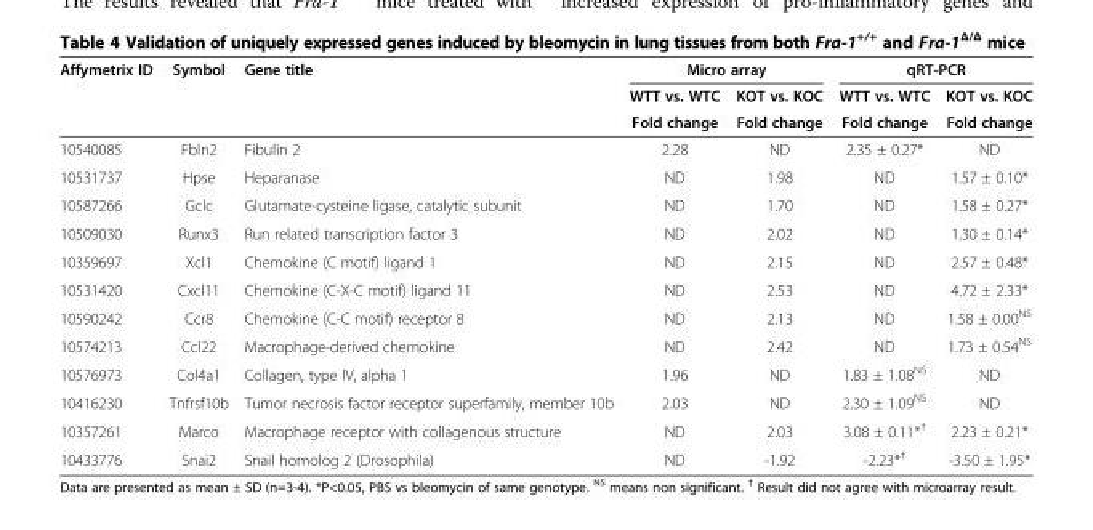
<table><thead><tr><td rowspan="3">Affymetrix ID</td><td rowspan="3">Symbol</td><td rowspan="3">Gene title</td><td colspan="2">Micro array</td><td colspan="2">qRT-PCR</td></tr><tr><td rowspan="2">WTT vs. WTC Fold change</td><td rowspan="2">KOT vs. KOC Fold change</td><td rowspan="2">WTT vs. WTC Fold change</td><td rowspan="2">KOT vs. KOC Fold change</td></tr><tr></tr></thead><tbody><tr><td>10540085</td><td>Fbln2</td><td>Fibulin 2</td><td>2.28</td><td>ND</td><td>2.35 ± 0.27*</td><td>ND</td></tr><tr><td>10531737</td><td>Hpse</td><td>Heparanase</td><td>ND</td><td>1.98</td><td>ND</td><td>1.57 ± 0.10*</td></tr><tr><td>10587266</td><td>Gclc</td><td>Glutamate-cysteine ligase, catalytic subunit</td><td>ND</td><td>1.70</td><td>ND</td><td>1.58 ± 0.27*</td></tr><tr><td>10509030</td><td>Runx3</td><td>Run related transcription factor 3</td><td>ND</td><td>2.02</td><td>ND</td><td>1.30 ± 0.14*</td></tr><tr><td>10359697</td><td>Xcl1</td><td>Chemokine (C motif) ligand 1</td><td>ND</td><td>2.15</td><td>ND</td><td>2.57 ± 0.48*</td></tr><tr><td>10531420</td><td>Cxcl11</td><td>Chemokine (C-X-C motif) ligand 11</td><td>ND</td><td>2.53</td><td>ND</td><td>4.72 ± 2.33*</td></tr><tr><td>10590242</td><td>Ccr8</td><td>Chemokine (C-C motif) receptor 8</td><td>ND</td><td>2.13</td><td>ND</td><td>1.58 ± 0.00<sup>NS</sup></td></tr><tr><td>10574213</td><td>Ccl22</td><td>Macrophage-derived chemokine</td><td>ND</td><td>2.42</td><td>ND</td><td>1.73 ± 0.54<sup>NS</sup></td></tr><tr><td>10576973</td><td>Col4a1</td><td>Collagen, type IV, alpha 1</td><td>1.96</td><td>ND</td><td>1.83 ± 1.08<sup>NS</sup></td><td>ND</td></tr><tr><td>10416230</td><td>Tnfrsf10b</td><td>Tumor necrosis factor receptor superfamily, member 10b</td><td>2.03</td><td>ND</td><td>2.30 ± 1.09<sup>NS</sup></td><td>ND</td></tr><tr><td>10357261</td><td>Marco</td><td>Macrophage receptor with collagenous structure</td><td>ND</td><td>2.03</td><td>3.08 ± 0.11*<sup>†</sup></td><td>2.23 ± 0.21*</td></tr><tr><td>10433776</td><td>Snai2</td><td>Snail homolog 2 (Drosophila)</td><td>ND</td><td>-1.92</td><td>-2.23*<sup>†</sup></td><td>-3.50 ± 1.95*</td></tr></tbody></table>